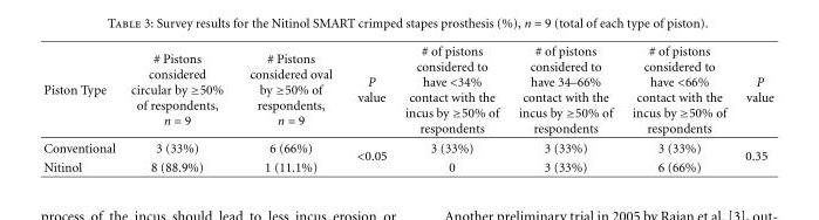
<table><thead><tr><td>Piston Type</td><td># Pistons considered circular by ≥50% of respondents, n = 9</td><td># Pistons considered oval by ≥50% of respondents, n = 9</td><td>P value</td><td># of pistons considered to have &lt;34% contact with the incus by ≥50% of respondents</td><td># of pistons considered to have 34–66% contact with the incus by ≥50% of respondents</td><td># of pistons considered to have &lt;66% contact with the incus by ≥50% of respondents</td><td>P value</td></tr></thead><tbody><tr><td>Conventional</td><td>3 (33%)</td><td>6 (66%)</td><td rowspan="2">&lt;0.05</td><td>3 (33%)</td><td>3 (33%)</td><td>3 (33%)</td><td rowspan="2">0.35</td></tr><tr><td>Nitinol</td><td>8 (88.9%)</td><td>1 (11.1%)</td><td>0</td><td>3 (33%)</td><td>6 (66%)</td></tr></tbody></table>